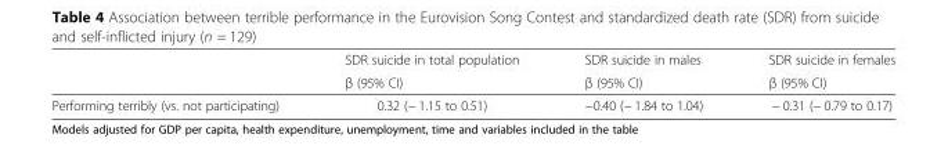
<table><thead><tr><td rowspan="2"></td><td rowspan="2">SDR suicide in total population β (95% CI)</td><td rowspan="2">SDR suicide in males β (95% CI)</td><td rowspan="2">SDR suicide in females β (95% CI)</td></tr><tr></tr></thead><tbody><tr><td>Performing terribly (vs. not participating)</td><td>0.32 (− 1.15 to 0.51)</td><td>−0.40 (− 1.84 to 1.04)</td><td>− 0.31 (− 0.79 to 0.17)</td></tr></tbody></table>